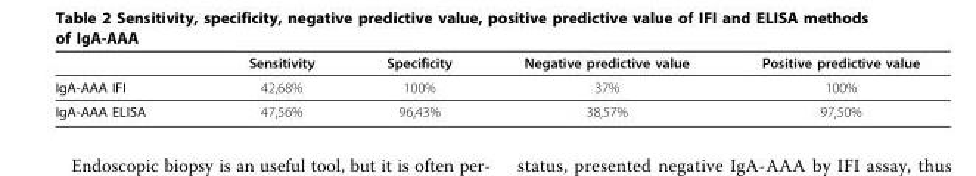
<table><thead><tr><td></td><td>Sensitivity</td><td>Specificity</td><td>Negative predictive value</td><td>Positive predictive value</td></tr></thead><tbody><tr><td>IgA-AAA IFI</td><td>42,68%</td><td>100%</td><td>37%</td><td>100%</td></tr><tr><td>IgA-AAA ELISA</td><td>47,56%</td><td>96,43%</td><td>38,57%</td><td>97,50%</td></tr></tbody></table>